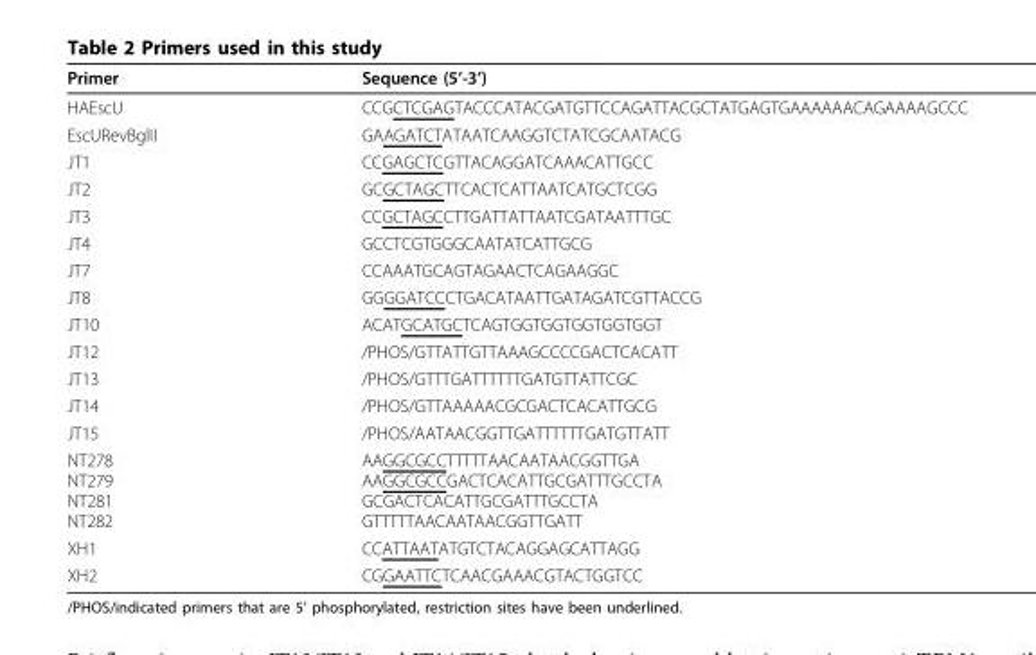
<table><thead><tr><td>Primer</td><td>Sequence (5’-3’)</td></tr></thead><tbody><tr><td>HAEscU</td><td>CCGCTCGAGTACCCATACGATGTTCCAGATTACGCTATGAGTGAAAAAACAGAAAAGCCC</td></tr><tr><td>EscURevBglII</td><td>GAAGATCTATAATCAAGGTCTATCGCAATACG</td></tr><tr><td>JT1</td><td>CCGAGCTCGTTACAGGATCAAACATTGCC</td></tr><tr><td>JT2</td><td>GCGCTAGCTTCACTCATTAATCATGCTCGG</td></tr><tr><td>JT3</td><td>CCGCTAGCCTTGATTATTAATCGATAATTTGC</td></tr><tr><td>JT4</td><td>GCCTCGTGGGCAATATCATTGCG</td></tr><tr><td>JT7</td><td>CCAAATGCAGTAGAACTCAGAAGGC</td></tr><tr><td>JT8</td><td>GGGGATCCCTGACATAATTGATAGATCGTTACCG</td></tr><tr><td>JT10</td><td>ACATGCATGCTCAGTGGTGGTGGTGGTGGT</td></tr><tr><td>JT12</td><td>/PHOS/GTTATTGTTAAAGCCCCGACTCACATT</td></tr><tr><td>JT13</td><td>/PHOS/GTTTGATTTTTTGATGTTATTCGC</td></tr><tr><td>JT14</td><td>/PHOS/GTTAAAAACGCGACTCACATTGCG</td></tr><tr><td>JT15</td><td>/PHOS/AATAACGGTTGATTTTTTGATGTTATT</td></tr><tr><td>NT278 NT279 NT281 NT282</td><td>AAGGCGCCTTTTTAACAATAACGGTTGA AAGGCGCCGACTCACATTGCGATTTGCCTA GCGACTCACATTGCGATTTGCCTA GTTTTTAACAATAACGGTTGATT</td></tr><tr><td>XH1</td><td>CCATTAATATGTCTACAGGAGCATTAGG</td></tr><tr><td>XH2</td><td>CGGAATTCTCAACGAAACGTACTGGTCC</td></tr></tbody></table>